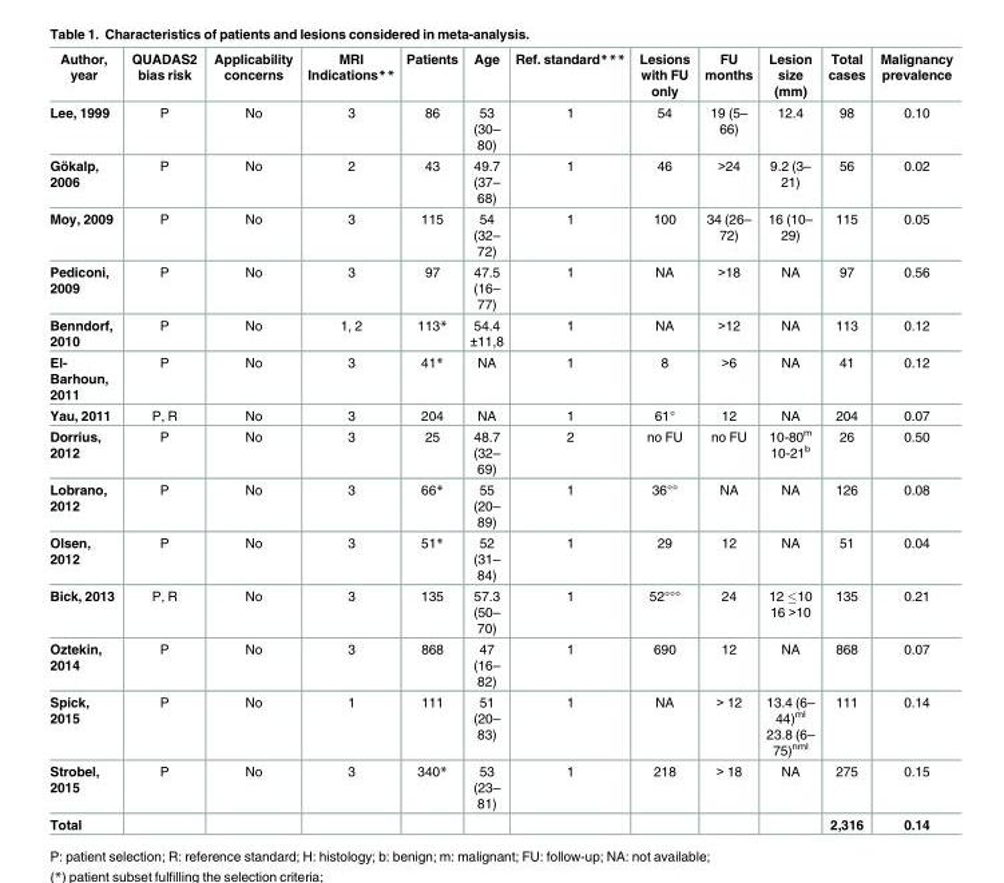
<table><thead><tr><td>Author, year</td><td>QUADAS2 bias risk</td><td>Applicability concerns</td><td>MRI Indications**</td><td>Patients</td><td>Age</td><td>Ref. standard***</td><td>Lesions with FU only</td><td>FU months</td><td>Lesion size (mm)</td><td>Total cases</td><td>Malignancy prevalence</td></tr></thead><tbody><tr><td>Lee, 1999</td><td>P</td><td>No</td><td>3</td><td>86</td><td>53 (30– 80)</td><td>1</td><td>54</td><td>19 (5– 66)</td><td>12.4</td><td>98</td><td>0.10</td></tr><tr><td>Gökalp, 2006</td><td>P</td><td>No</td><td>2</td><td>43</td><td>49.7 (37– 68)</td><td>1</td><td>46</td><td>&gt;24</td><td>9.2 (3– 21)</td><td>56</td><td>0.02</td></tr><tr><td>Moy, 2009</td><td>P</td><td>No</td><td>3</td><td>115</td><td>54 (32– 72)</td><td>1</td><td>100</td><td>34 (26– 72)</td><td>16 (10– 29)</td><td>115</td><td>0.05</td></tr><tr><td>Pediconi, 2009</td><td>P</td><td>No</td><td>3</td><td>97</td><td>47.5 (16– 77)</td><td>1</td><td>NA</td><td>&gt;18</td><td>NA</td><td>97</td><td>0.56</td></tr><tr><td>Benndorf, 2010</td><td>P</td><td>No</td><td>1, 2</td><td>113*</td><td>54.4 ±11,8</td><td>1</td><td>NA</td><td>&gt;12</td><td>NA</td><td>113</td><td>0.12</td></tr><tr><td>El- Barhoun, 2011</td><td>P</td><td>No</td><td>3</td><td>41*</td><td>NA</td><td>1</td><td>8</td><td>&gt;6</td><td>NA</td><td>41</td><td>0.12</td></tr><tr><td>Yau, 2011</td><td>P, R</td><td>No</td><td>3</td><td>204</td><td>NA</td><td>1</td><td>61°</td><td>12</td><td>NA</td><td>204</td><td>0.07</td></tr><tr><td>Dorrius, 2012</td><td>P</td><td>No</td><td>3</td><td>25</td><td>48.7 (32– 69)</td><td>2</td><td>no FU</td><td>no FU</td><td>10-80<sup>m</sup> 10-21<sup>b</sup></td><td>26</td><td>0.50</td></tr><tr><td>Lobrano, 2012</td><td>P</td><td>No</td><td>3</td><td>66*</td><td>55 (20– 89)</td><td>1</td><td>36°°</td><td>NA</td><td>NA</td><td>126</td><td>0.08</td></tr><tr><td>Olsen, 2012</td><td>P</td><td>No</td><td>3</td><td>51*</td><td>52 (31– 84)</td><td>1</td><td>29</td><td>12</td><td>NA</td><td>51</td><td>0.04</td></tr><tr><td>Bick, 2013</td><td>P, R</td><td>No</td><td>3</td><td>135</td><td>57.3 (50– 70)</td><td>1</td><td>52°°°</td><td>24</td><td>12 ≤10 16 &gt;10</td><td>135</td><td>0.21</td></tr><tr><td>Oztekin, 2014</td><td>P</td><td>No</td><td>3</td><td>868</td><td>47 (16– 82)</td><td>1</td><td>690</td><td>12</td><td>NA</td><td>868</td><td>0.07</td></tr><tr><td>Spick, 2015</td><td>P</td><td>No</td><td>1</td><td>111</td><td>51 (20– 83)</td><td>1</td><td>NA</td><td>&gt; 12</td><td>13.4 (6– 44)<sup>ml</sup> 23.8 (6– 75)<sup>nml</sup></td><td>111</td><td>0.14</td></tr><tr><td>Strobel, 2015</td><td>P</td><td>No</td><td>3</td><td>340*</td><td>53 (23– 81)</td><td>1</td><td>218</td><td>&gt; 18</td><td>NA</td><td>275</td><td>0.15</td></tr><tr><td>Total</td><td></td><td></td><td></td><td></td><td></td><td></td><td></td><td></td><td></td><td>2,316</td><td>0.14</td></tr></tbody></table>